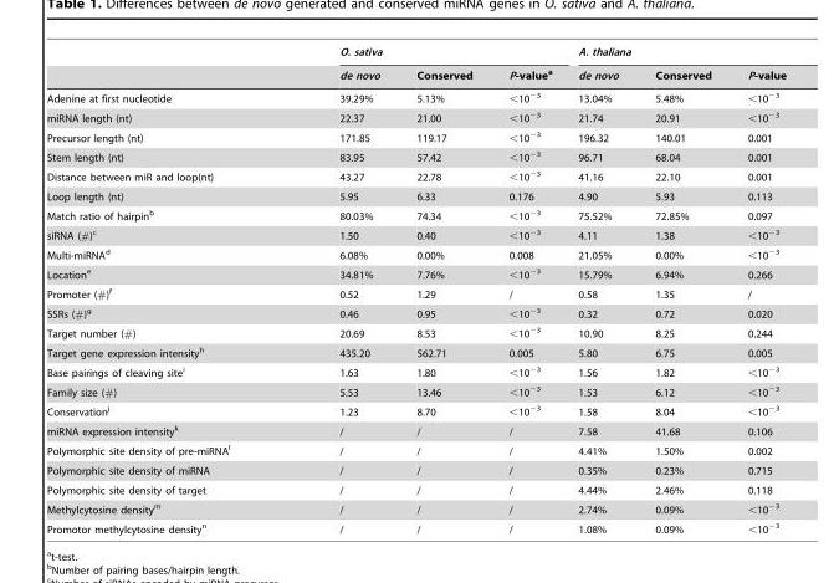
<table><thead><tr><td rowspan="2"></td><td colspan="3">O. sativa</td><td colspan="3">A. thaliana</td></tr><tr><td>de novo</td><td>Conserved</td><td>P-value<sup>a</sup></td><td>de novo</td><td>Conserved</td><td>P-value</td></tr></thead><tbody><tr><td>Adenine at first nucleotide</td><td>39.29%</td><td>5.13%</td><td>&lt;10<sup>−3</sup></td><td>13.04%</td><td>5.48%</td><td>&lt;10<sup>−3</sup></td></tr><tr><td>miRNA length (nt)</td><td>22.37</td><td>21.00</td><td>&lt;10<sup>−3</sup></td><td>21.74</td><td>20.91</td><td>&lt;10<sup>−3</sup></td></tr><tr><td>Precursor length (nt)</td><td>171.85</td><td>119.17</td><td>&lt;10<sup>−3</sup></td><td>196.32</td><td>140.01</td><td>0.001</td></tr><tr><td>Stem length (nt)</td><td>83.95</td><td>57.42</td><td>&lt;10<sup>−3</sup></td><td>96.71</td><td>68.04</td><td>0.001</td></tr><tr><td>Distance between miR and loop(nt)</td><td>43.27</td><td>22.78</td><td>&lt;10<sup>−3</sup></td><td>41.16</td><td>22.10</td><td>0.001</td></tr><tr><td>Loop length (nt)</td><td>5.95</td><td>6.33</td><td>0.176</td><td>4.90</td><td>5.93</td><td>0.113</td></tr><tr><td>Match ratio of hairpin<sup>b</sup></td><td>80.03%</td><td>74.34</td><td>&lt;10<sup>−3</sup></td><td>75.52%</td><td>72.85%</td><td>0.097</td></tr><tr><td>siRNA (#)<sup>c</sup></td><td>1.50</td><td>0.40</td><td>&lt;10<sup>−3</sup></td><td>4.11</td><td>1.38</td><td>&lt;10<sup>−3</sup></td></tr><tr><td>Multi-miRNA<sup>d</sup></td><td>6.08%</td><td>0.00%</td><td>0.008</td><td>21.05%</td><td>0.00%</td><td>&lt;10<sup>−3</sup></td></tr><tr><td>Location<sup>e</sup></td><td>34.81%</td><td>7.76%</td><td>&lt;10<sup>−3</sup></td><td>15.79%</td><td>6.94%</td><td>0.266</td></tr><tr><td>Promoter (#)<sup>f</sup></td><td>0.52</td><td>1.29</td><td>/</td><td>0.58</td><td>1.35</td><td>/</td></tr><tr><td>SSRs (#)<sup>g</sup></td><td>0.46</td><td>0.95</td><td>&lt;10<sup>−3</sup></td><td>0.32</td><td>0.72</td><td>0.020</td></tr><tr><td>Target number (#)</td><td>20.69</td><td>8.53</td><td>&lt;10<sup>−3</sup></td><td>10.90</td><td>8.25</td><td>0.244</td></tr><tr><td>Target gene expression intensity<sup>h</sup></td><td>435.20</td><td>562.71</td><td>0.005</td><td>5.80</td><td>6.75</td><td>0.005</td></tr><tr><td>Base pairings of cleaving site<sup>i</sup></td><td>1.63</td><td>1.80</td><td>&lt;10<sup>−3</sup></td><td>1.56</td><td>1.82</td><td>&lt;10<sup>−3</sup></td></tr><tr><td>Family size (#)</td><td>5.53</td><td>13.46</td><td>&lt;10<sup>−3</sup></td><td>1.53</td><td>6.12</td><td>&lt;10<sup>−3</sup></td></tr><tr><td>Conservation<sup>j</sup></td><td>1.23</td><td>8.70</td><td>&lt;10<sup>−3</sup></td><td>1.58</td><td>8.04</td><td>&lt;10<sup>−3</sup></td></tr><tr><td>miRNA expression intensity<sup>k</sup></td><td>/</td><td>/</td><td>/</td><td>7.58</td><td>41.68</td><td>0.106</td></tr><tr><td>Polymorphic site density of pre-miRNA<sup>l</sup></td><td>/</td><td>/</td><td>/</td><td>4.41%</td><td>1.50%</td><td>0.002</td></tr><tr><td>Polymorphic site density of miRNA</td><td>/</td><td>/</td><td>/</td><td>0.35%</td><td>0.23%</td><td>0.715</td></tr><tr><td>Polymorphic site density of target</td><td>/</td><td>/</td><td>/</td><td>4.44%</td><td>2.46%</td><td>0.118</td></tr><tr><td>Methylcytosine density<sup>m</sup></td><td>/</td><td>/</td><td>/</td><td>2.74%</td><td>0.09%</td><td>&lt;10<sup>−3</sup></td></tr><tr><td>Promotor methylcytosine density<sup>n</sup></td><td>/</td><td>/</td><td>/</td><td>1.08%</td><td>0.09%</td><td>&lt;10<sup>−3</sup></td></tr></tbody></table>